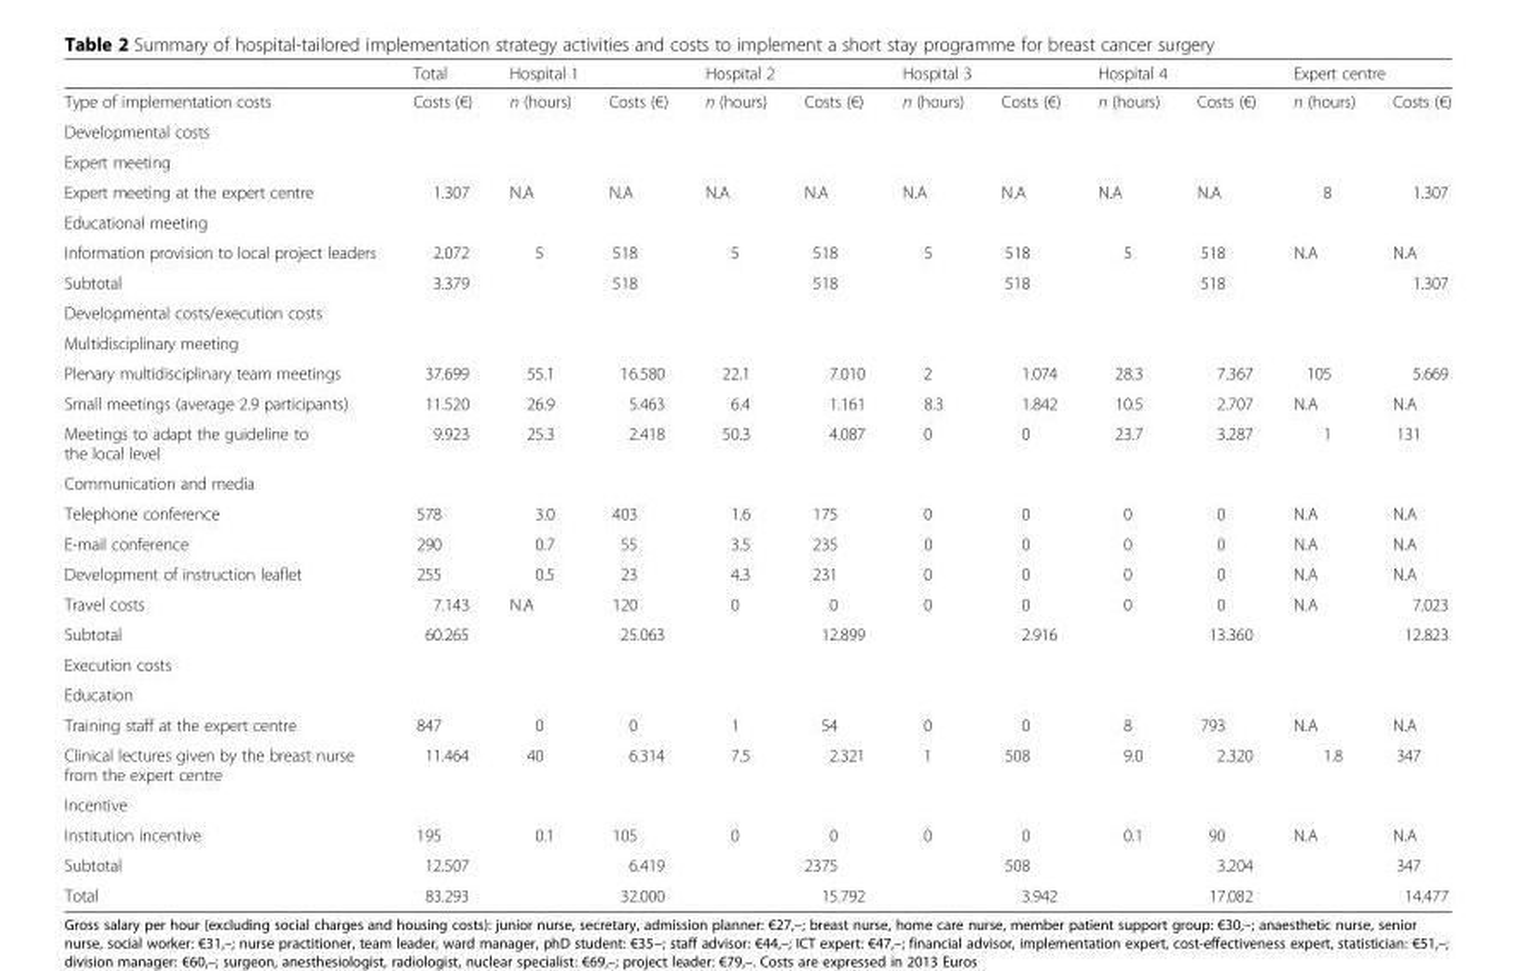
<table><thead><tr><td rowspan="2">Type of implementation costs</td><td rowspan="2">Total Costs (€)</td><td colspan="2">Hospital 1</td><td colspan="2">Hospital 2</td><td colspan="2">Hospital 3</td><td colspan="2">Hospital 4</td><td colspan="2">Expert centre</td></tr><tr><td>n (hours)</td><td>Costs (€)</td><td>n (hours)</td><td>Costs (€)</td><td>n (hours)</td><td>Costs (€)</td><td>n (hours)</td><td>Costs (€)</td><td>n (hours)</td><td>Costs (€)</td></tr></thead><tbody><tr><td colspan="12">Developmental costs</td></tr><tr><td colspan="12">Expert meeting</td></tr><tr><td>Expert meeting at the expert centre</td><td>1.307</td><td>N.A</td><td>N.A</td><td>N.A</td><td>N.A</td><td>N.A</td><td>N.A</td><td>N.A</td><td>N.A</td><td>8</td><td>1.307</td></tr><tr><td colspan="12">Educational meeting</td></tr><tr><td>Information provision to local project leaders</td><td>2.072</td><td>5</td><td>518</td><td>5</td><td>518</td><td>5</td><td>518</td><td>5</td><td>518</td><td>N.A</td><td>N.A</td></tr><tr><td>Subtotal</td><td>3.379</td><td></td><td>518</td><td></td><td>518</td><td></td><td>518</td><td></td><td>518</td><td></td><td>1.307</td></tr><tr><td colspan="12">Developmental costs/execution costs</td></tr><tr><td colspan="12">Multidisciplinary meeting</td></tr><tr><td>Plenary multidisciplinary team meetings</td><td>37.699</td><td>55.1</td><td>16.580</td><td>22.1</td><td>7.010</td><td>2</td><td>1.074</td><td>28.3</td><td>7.367</td><td>105</td><td>5.669</td></tr><tr><td>Small meetings (average 2.9 participants)</td><td>11.520</td><td>26.9</td><td>5.463</td><td>6.4</td><td>1.161</td><td>8.3</td><td>1.842</td><td>10.5</td><td>2.707</td><td>N.A</td><td>N.A</td></tr><tr><td>Meetings to adapt the guideline to the local level</td><td>9.923</td><td>25.3</td><td>2.418</td><td>50.3</td><td>4.087</td><td>0</td><td>0</td><td>23.7</td><td>3.287</td><td>1</td><td>131</td></tr><tr><td colspan="12">Communication and media</td></tr><tr><td>Telephone conference</td><td>578</td><td>3.0</td><td>403</td><td>1.6</td><td>175</td><td>0</td><td>0</td><td>0</td><td>0</td><td>N.A</td><td>N.A</td></tr><tr><td>E-mail conference</td><td>290</td><td>0.7</td><td>55</td><td>3.5</td><td>235</td><td>0</td><td>0</td><td>0</td><td>0</td><td>N.A</td><td>N.A</td></tr><tr><td>Development of instruction leaflet</td><td>255</td><td>0.5</td><td>23</td><td>4.3</td><td>231</td><td>0</td><td>0</td><td>0</td><td>0</td><td>N.A</td><td>N.A</td></tr><tr><td>Travel costs</td><td>7.143</td><td>N.A</td><td>120</td><td>0</td><td>0</td><td>0</td><td>0</td><td>0</td><td>0</td><td>N.A</td><td>7.023</td></tr><tr><td>Subtotal</td><td>60.265</td><td></td><td>25.063</td><td></td><td>12.899</td><td></td><td>2.916</td><td></td><td>13.360</td><td></td><td>12.823</td></tr><tr><td colspan="12">Execution costs</td></tr><tr><td colspan="12">Education</td></tr><tr><td>Training staff at the expert centre</td><td>847</td><td>0</td><td>0</td><td>1</td><td>54</td><td>0</td><td>0</td><td>8</td><td>793</td><td>N.A</td><td>N.A</td></tr><tr><td>Clinical lectures given by the breast nurse from the expert centre</td><td>11.464</td><td>40</td><td>6.314</td><td>7.5</td><td>2.321</td><td>1</td><td>508</td><td>9.0</td><td>2.320</td><td>1.8</td><td>347</td></tr><tr><td colspan="12">Incentive</td></tr><tr><td>Institution incentive</td><td>195</td><td>0.1</td><td>105</td><td>0</td><td>0</td><td>0</td><td>0</td><td>0.1</td><td>90</td><td>N.A</td><td>N.A</td></tr><tr><td>Subtotal</td><td>12.507</td><td></td><td>6.419</td><td></td><td>2375</td><td></td><td>508</td><td></td><td>3.204</td><td></td><td>347</td></tr><tr><td>Total</td><td>83.293</td><td></td><td>32.000</td><td></td><td>15.792</td><td></td><td>3.942</td><td></td><td>17.082</td><td></td><td>14.477</td></tr></tbody></table>